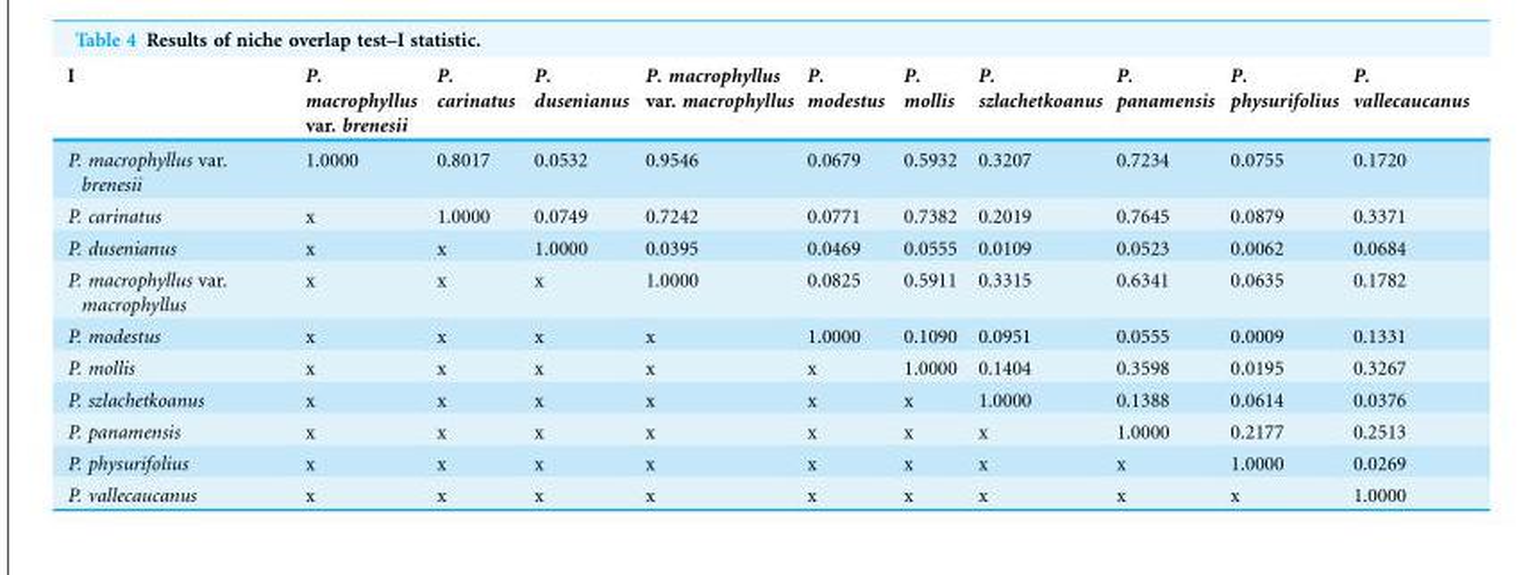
<table><thead><tr><td>I</td><td>P. macrophyllus var. brenesii</td><td>P. carinatus</td><td>P. dusenianus</td><td>P. macrophyllus var. macrophyllus</td><td>P. modestus</td><td>P. mollis</td><td>P. szlachetkoanus</td><td>P. panamensis</td><td>P. physurifolius</td><td>P. vallecaucanus</td></tr></thead><tbody><tr><td>P. macrophyllus var. brenesii</td><td>1.0000</td><td>0.8017</td><td>0.0532</td><td>0.9546</td><td>0.0679</td><td>0.5932</td><td>0.3207</td><td>0.7234</td><td>0.0755</td><td>0.1720</td></tr><tr><td>P. carinatus</td><td>x</td><td>1.0000</td><td>0.0749</td><td>0.7242</td><td>0.0771</td><td>0.7382</td><td>0.2019</td><td>0.7645</td><td>0.0879</td><td>0.3371</td></tr><tr><td>P. dusenianus</td><td>x</td><td>x</td><td>1.0000</td><td>0.0395</td><td>0.0469</td><td>0.0555</td><td>0.0109</td><td>0.0523</td><td>0.0062</td><td>0.0684</td></tr><tr><td>P. macrophyllus var. macrophyllus</td><td>x</td><td>x</td><td>x</td><td>1.0000</td><td>0.0825</td><td>0.5911</td><td>0.3315</td><td>0.6341</td><td>0.0635</td><td>0.1782</td></tr><tr><td>P. modestus</td><td>x</td><td>x</td><td>x</td><td>x</td><td>1.0000</td><td>0.1090</td><td>0.0951</td><td>0.0555</td><td>0.0009</td><td>0.1331</td></tr><tr><td>P. mollis</td><td>x</td><td>x</td><td>x</td><td>x</td><td>x</td><td>1.0000</td><td>0.1404</td><td>0.3598</td><td>0.0195</td><td>0.3267</td></tr><tr><td>P. szlachetkoanus</td><td>x</td><td>x</td><td>x</td><td>x</td><td>x</td><td>x</td><td>1.0000</td><td>0.1388</td><td>0.0614</td><td>0.0376</td></tr><tr><td>P. panamensis</td><td>x</td><td>x</td><td>x</td><td>x</td><td>x</td><td>x</td><td>x</td><td>1.0000</td><td>0.2177</td><td>0.2513</td></tr><tr><td>P. physurifolius</td><td>x</td><td>x</td><td>x</td><td>x</td><td>x</td><td>x</td><td>x</td><td>x</td><td>1.0000</td><td>0.0269</td></tr><tr><td>P. vallecaucanus</td><td>x</td><td>x</td><td>x</td><td>x</td><td>x</td><td>x</td><td>x</td><td>x</td><td>x</td><td>1.0000</td></tr></tbody></table>